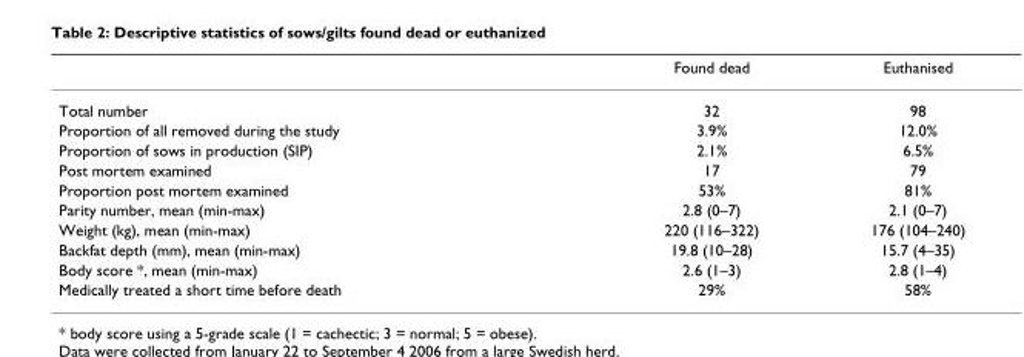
<table><thead><tr><td></td><td>Found dead</td><td>Euthanised</td></tr></thead><tbody><tr><td>Total number</td><td>32</td><td>98</td></tr><tr><td>Proportion of all removed during the study</td><td>3.9%</td><td>12.0%</td></tr><tr><td>Proportion of sows in production (SIP)</td><td>2.1%</td><td>6.5%</td></tr><tr><td>Post mortem examined</td><td>17</td><td>79</td></tr><tr><td>Proportion post mortem examined</td><td>53%</td><td>81%</td></tr><tr><td>Parity number, mean (min-max)</td><td>2.8 (0–7)</td><td>2.1 (0–7)</td></tr><tr><td>Weight (kg), mean (min-max)</td><td>220 (116–322)</td><td>176 (104–240)</td></tr><tr><td>Backfat depth (mm), mean (min-max)</td><td>19.8 (10–28)</td><td>15.7 (4–35)</td></tr><tr><td>Body score *, mean (min-max)</td><td>2.6 (1–3)</td><td>2.8 (1–4)</td></tr><tr><td>Medically treated a short time before death</td><td>29%</td><td>58%</td></tr></tbody></table>